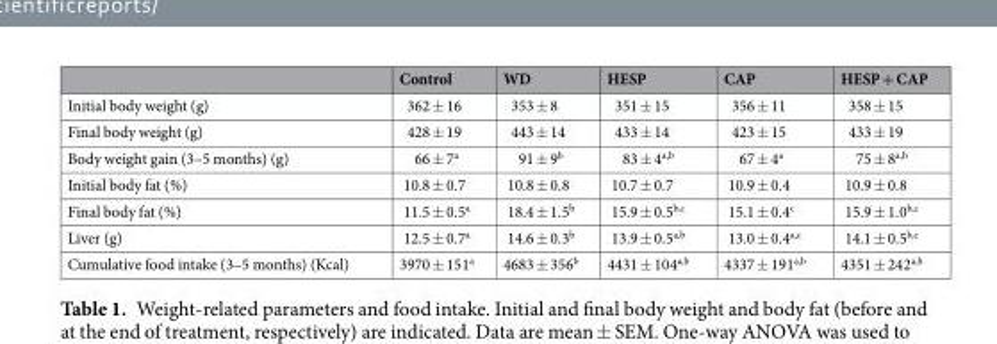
<table><thead><tr><td></td><td>Control</td><td>WD</td><td>HESP</td><td>CAP</td><td>HESP + CAP</td></tr></thead><tbody><tr><td>Initial body weight (g)</td><td>362 ± 16</td><td>353 ± 8</td><td>351 ± 15</td><td>356 ± 11</td><td>358 ± 15</td></tr><tr><td>Final body weight (g)</td><td>428 ± 19</td><td>443 ± 14</td><td>433 ± 14</td><td>423 ± 15</td><td>433 ± 19</td></tr><tr><td>Body weight gain (3–5 months) (g)</td><td>66 ± 7<sup>a</sup></td><td>91 ± 9<sup>b</sup></td><td>83 ± 4<sup>a,b</sup></td><td>67 ± 4<sup>a</sup></td><td>75 ± 8<sup>a,b</sup></td></tr><tr><td>Initial body fat (%)</td><td>10.8 ± 0.7</td><td>10.8 ± 0.8</td><td>10.7 ± 0.7</td><td>10.9 ± 0.4</td><td>10.9 ± 0.8</td></tr><tr><td>Final body fat (%)</td><td>11.5 ± 0.5<sup>a</sup></td><td>18.4 ± 1.5<sup>b</sup></td><td>15.9 ± 0.5<sup>b,c</sup></td><td>15.1 ± 0.4<sup>c</sup></td><td>15.9 ± 1.0<sup>b,c</sup></td></tr><tr><td>Liver (g)</td><td>12.5 ± 0.7<sup>a</sup></td><td>14.6 ± 0.3<sup>b</sup></td><td>13.9 ± 0.5<sup>a,b</sup></td><td>13.0 ± 0.4<sup>a,c</sup></td><td>14.1 ± 0.5<sup>b,c</sup></td></tr><tr><td>Cumulative food intake (3–5 months) (Kcal)</td><td>3970 ± 151<sup>a</sup></td><td>4683 ± 356<sup>b</sup></td><td>4431 ± 104<sup>a,b</sup></td><td>4337 ± 191<sup>a,b</sup></td><td>4351 ± 242<sup>a,b</sup></td></tr></tbody></table>